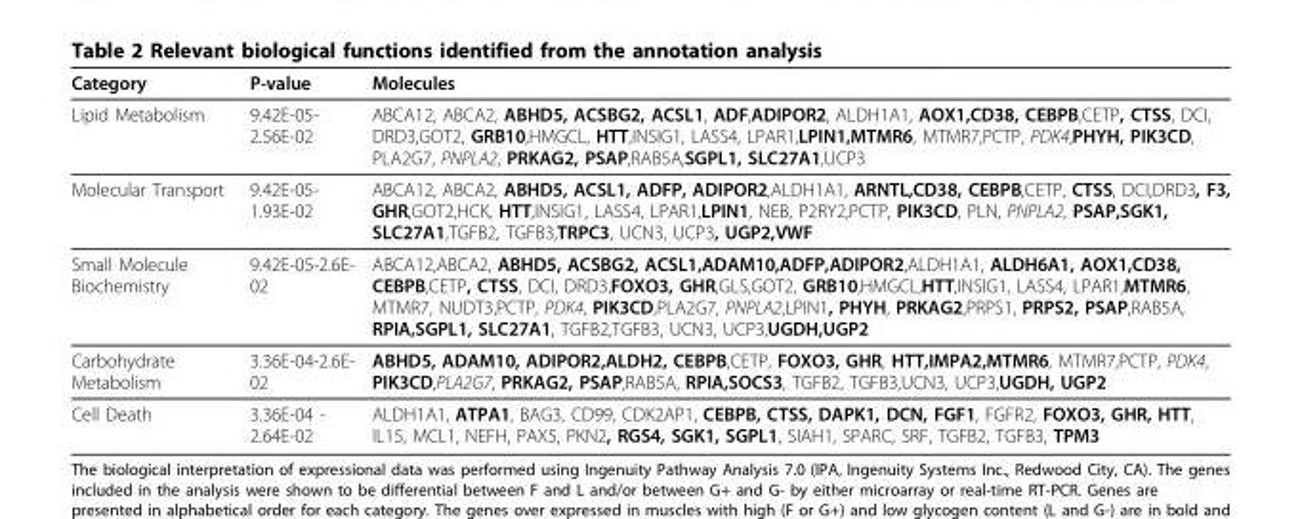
<table><thead><tr><td>Category</td><td>P-value</td><td>Molecules</td></tr></thead><tbody><tr><td>Lipid Metabolism</td><td>9.42E-05- 2.56E-02</td><td>ABCA12, ABCA2, ABHD5, ACSBG2, ACSL1, ADF,ADIPOR2, ALDH1A1, AOX1,CD38, CEBPB,CETP, CTSS, DCI, DRD3,GOT2, GRB10,HMGCL, HTT,INSIG1, LASS4, LPAR1,LPIN1,MTMR6, MTMR7,PCTP, PDK4,PHYH, PIK3CD, PLA2G7, PNPLA2, PRKAG2, PSAP,RAB5A,SGPL1, SLC27A1,UCP3</td></tr><tr><td>Molecular Transport</td><td>9.42E-05- 1.93E-02</td><td>ABCA12, ABCA2, ABHD5, ACSL1, ADFP, ADIPOR2,ALDH1A1, ARNTL,CD38, CEBPB,CETP, CTSS, DCI,DRD3, F3, GHR,GOT2,HCK, HTT,INSIG1, LASS4, LPAR1,LPIN1, NEB, P2RY2,PCTP, PIK3CD, PLN, PNPLA2, PSAP,SGK1, SLC27A1,TGFB2, TGFB3,TRPC3, UCN3, UCP3, UGP2,VWF</td></tr><tr><td>Small Molecule Biochemistry</td><td>9.42E-05-2.6E- 02</td><td>ABCA12,ABCA2, ABHD5, ACSBG2, ACSL1,ADAM10,ADFP,ADIPOR2,ALDH1A1, ALDH6A1, AOX1,CD38, CEBPB,CETP, CTSS, DCI, DRD3,FOXO3, GHR,GLS,GOT2, GRB10,HMGCL,HTT,INSIG1, LASS4, LPAR1,MTMR6, MTMR7, NUDT3,PCTP, PDK4, PIK3CD,PLA2G7, PNPLA2,LPIN1, PHYH, PRKAG2,PRPS1, PRPS2, PSAP,RAB5A, RPIA,SGPL1, SLC27A1, TGFB2,TGFB3, UCN3, UCP3,UGDH,UGP2</td></tr><tr><td>Carbohydrate Metabolism</td><td>3.36E-04-2.6E- 02</td><td>ABHD5, ADAM10, ADIPOR2,ALDH2, CEBPB,CETP, FOXO3, GHR, HTT,IMPA2,MTMR6, MTMR7,PCTP, PDK4, PIK3CD,PLA2G7, PRKAG2, PSAP,RAB5A, RPIA,SOCS3, TGFB2, TGFB3,UCN3, UCP3,UGDH, UGP2</td></tr><tr><td>Cell Death</td><td>3.36E-04 - 2.64E-02</td><td>ALDH1A1, ATPA1, BAG3, CD99, CDK2AP1, CEBPB, CTSS, DAPK1, DCN, FGF1, FGFR2, FOXO3, GHR, HTT, IL15, MCL1, NEFH, PAX5, PKN2, RGS4, SGK1, SGPL1, SIAH1, SPARC, SRF, TGFB2, TGFB3, TPM3</td></tr></tbody></table>